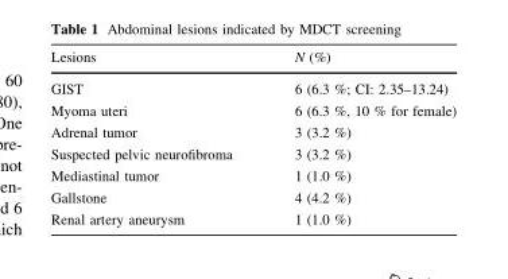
<table><thead><tr><td>Lesions</td><td>N (%)</td></tr></thead><tbody><tr><td>GIST</td><td>6 (6.3 %; CI: 2.35–13.24)</td></tr><tr><td>Myoma uteri</td><td>6 (6.3 %, 10 % for female)</td></tr><tr><td>Adrenal tumor</td><td>3 (3.2 %)</td></tr><tr><td>Suspected pelvic neurofibroma</td><td>3 (3.2 %)</td></tr><tr><td>Mediastinal tumor</td><td>1 (1.0 %)</td></tr><tr><td>Gallstone</td><td>4 (4.2 %)</td></tr><tr><td>Renal artery aneurysm</td><td>1 (1.0 %)</td></tr></tbody></table>